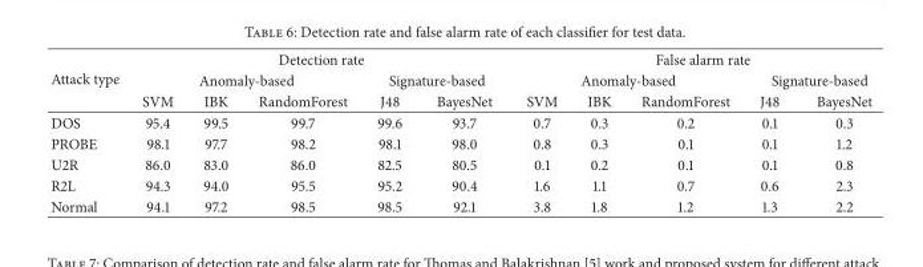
<table><thead><tr><td rowspan="3">Attack type</td><td colspan="5">Detection rate</td><td colspan="5">False alarm rate</td></tr><tr><td colspan="3">Anomaly-based</td><td colspan="2">Signature-based</td><td colspan="3">Anomaly-based</td><td colspan="2">Signature-based</td></tr><tr><td>SVM</td><td>IBK</td><td>RandomForest</td><td>J48</td><td>BayesNet</td><td>SVM</td><td>IBK</td><td>RandomForest</td><td>J48</td><td>BayesNet</td></tr></thead><tbody><tr><td>DOS</td><td>95.4</td><td>99.5</td><td>99.7</td><td>99.6</td><td>93.7</td><td>0.7</td><td>0.3</td><td>0.2</td><td>0.1</td><td>0.3</td></tr><tr><td>PROBE</td><td>98.1</td><td>97.7</td><td>98.2</td><td>98.1</td><td>98.0</td><td>0.8</td><td>0.3</td><td>0.1</td><td>0.1</td><td>1.2</td></tr><tr><td>U2R</td><td>86.0</td><td>83.0</td><td>86.0</td><td>82.5</td><td>80.5</td><td>0.1</td><td>0.2</td><td>0.1</td><td>0.1</td><td>0.8</td></tr><tr><td>R2L</td><td>94.3</td><td>94.0</td><td>95.5</td><td>95.2</td><td>90.4</td><td>1.6</td><td>1.1</td><td>0.7</td><td>0.6</td><td>2.3</td></tr><tr><td>Normal</td><td>94.1</td><td>97.2</td><td>98.5</td><td>98.5</td><td>92.1</td><td>3.8</td><td>1.8</td><td>1.2</td><td>1.3</td><td>2.2</td></tr></tbody></table>